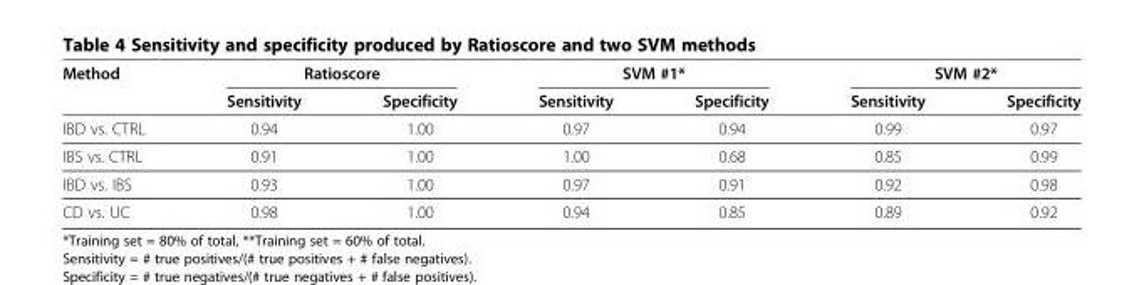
<table><thead><tr><td rowspan="2">Method</td><td colspan="2">Ratioscore</td><td colspan="2">SVM #1*</td><td colspan="2">SVM #2*</td></tr><tr><td>Sensitivity</td><td>Specificity</td><td>Sensitivity</td><td>Specificity</td><td>Sensitivity</td><td>Specificity</td></tr></thead><tbody><tr><td>IBD vs. CTRL</td><td>0.94</td><td>1.00</td><td>0.97</td><td>0.94</td><td>0.99</td><td>0.97</td></tr><tr><td>IBS vs. CTRL</td><td>0.91</td><td>1.00</td><td>1.00</td><td>0.68</td><td>0.85</td><td>0.99</td></tr><tr><td>IBD vs. IBS</td><td>0.93</td><td>1.00</td><td>0.97</td><td>0.91</td><td>0.92</td><td>0.98</td></tr><tr><td>CD vs. UC</td><td>0.98</td><td>1.00</td><td>0.94</td><td>0.85</td><td>0.89</td><td>0.92</td></tr></tbody></table>